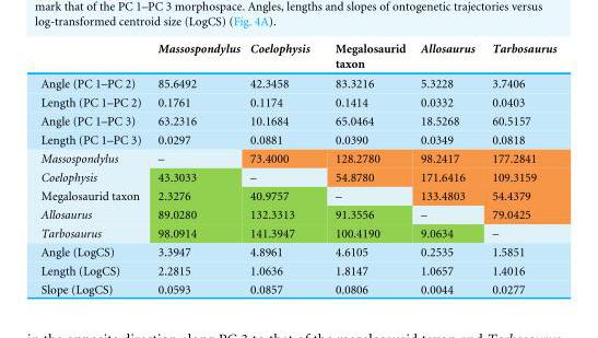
<table><thead><tr><td></td><td>Massospondylus</td><td>Coelophysis</td><td>Megalosaurid taxon</td><td>Allosaurus</td><td>Tarbosaurus</td></tr></thead><tbody><tr><td>Angle (PC 1–PC 2)</td><td>85.6492</td><td>42.3458</td><td>83.3216</td><td>5.3228</td><td>3.7406</td></tr><tr><td>Length (PC 1–PC 2)</td><td>0.1761</td><td>0.1174</td><td>0.1414</td><td>0.0332</td><td>0.0403</td></tr><tr><td>Angle (PC 1–PC 3)</td><td>63.2316</td><td>10.1684</td><td>65.0464</td><td>18.5268</td><td>60.5157</td></tr><tr><td>Length (PC 1–PC 3)</td><td>0.0297</td><td>0.0881</td><td>0.0390</td><td>0.0349</td><td>0.0818</td></tr><tr><td>Massospondylus</td><td>–</td><td>73.4000</td><td>128.2780</td><td>98.2417</td><td>177.2841</td></tr><tr><td>Coelophysis</td><td>43.3033</td><td>–</td><td>54.8780</td><td>171.6416</td><td>109.3159</td></tr><tr><td>Megalosaurid taxon</td><td>2.3276</td><td>40.9757</td><td>–</td><td>133.4803</td><td>54.4379</td></tr><tr><td>Allosaurus</td><td>89.0280</td><td>132.3313</td><td>91.3556</td><td>–</td><td>79.0425</td></tr><tr><td>Tarbosaurus</td><td>98.0914</td><td>141.3947</td><td>100.4190</td><td>9.0634</td><td>–</td></tr><tr><td>Angle (LogCS)</td><td>3.3947</td><td>4.8961</td><td>4.6105</td><td>0.2535</td><td>1.5851</td></tr><tr><td>Length (LogCS)</td><td>2.2815</td><td>1.0636</td><td>1.8147</td><td>1.0657</td><td>1.4016</td></tr><tr><td>Slope (LogCS)</td><td>0.0593</td><td>0.0857</td><td>0.0806</td><td>0.0044</td><td>0.0277</td></tr></tbody></table>